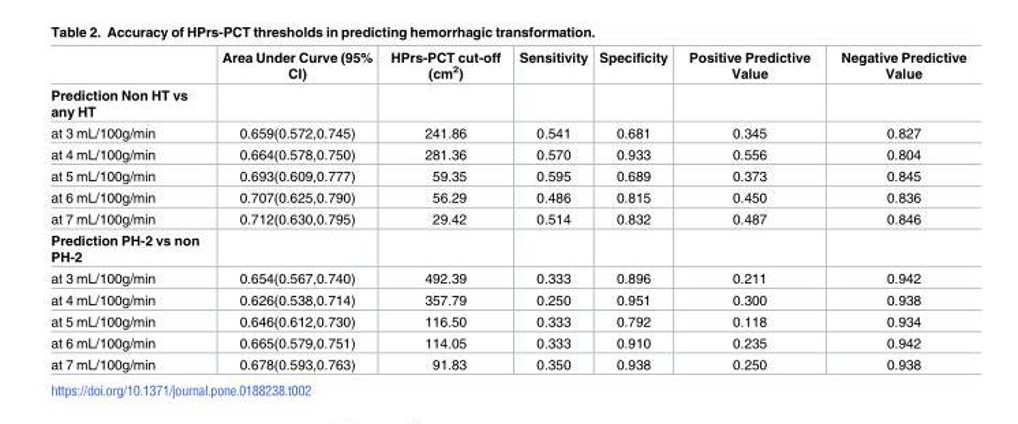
<table><thead><tr><td></td><td>Area Under Curve (95% CI)</td><td>HPrs-PCT cut-off (cm<sup>2</sup>)</td><td>Sensitivity</td><td>Specificity</td><td>Positive Predictive Value</td><td>Negative Predictive Value</td></tr></thead><tbody><tr><td colspan="7">Prediction Non HT vs any HT</td></tr><tr><td>at 3 mL/100g/min</td><td>0.659(0.572,0.745)</td><td>241.86</td><td>0.541</td><td>0.681</td><td>0.345</td><td>0.827</td></tr><tr><td>at 4 mL/100g/min</td><td>0.664(0.578,0.750)</td><td>281.36</td><td>0.570</td><td>0.933</td><td>0.556</td><td>0.804</td></tr><tr><td>at 5 mL/100g/min</td><td>0.693(0.609,0.777)</td><td>59.35</td><td>0.595</td><td>0.689</td><td>0.373</td><td>0.845</td></tr><tr><td>at 6 mL/100g/min</td><td>0.707(0.625,0.790)</td><td>56.29</td><td>0.486</td><td>0.815</td><td>0.450</td><td>0.836</td></tr><tr><td>at 7 mL/100g/min</td><td>0.712(0.630,0.795)</td><td>29.42</td><td>0.514</td><td>0.832</td><td>0.487</td><td>0.846</td></tr><tr><td colspan="7">Prediction PH-2 vs non PH-2</td></tr><tr><td>at 3 mL/100g/min</td><td>0.654(0.567,0.740)</td><td>492.39</td><td>0.333</td><td>0.896</td><td>0.211</td><td>0.942</td></tr><tr><td>at 4 mL/100g/min</td><td>0.626(0.538,0.714)</td><td>357.79</td><td>0.250</td><td>0.951</td><td>0.300</td><td>0.938</td></tr><tr><td>at 5 mL/100g/min</td><td>0.646(0.612,0.730)</td><td>116.50</td><td>0.333</td><td>0.792</td><td>0.118</td><td>0.934</td></tr><tr><td>at 6 mL/100g/min</td><td>0.665(0.579,0.751)</td><td>114.05</td><td>0.333</td><td>0.910</td><td>0.235</td><td>0.942</td></tr><tr><td>at 7 mL/100g/min</td><td>0.678(0.593,0.763)</td><td>91.83</td><td>0.350</td><td>0.938</td><td>0.250</td><td>0.938</td></tr></tbody></table>